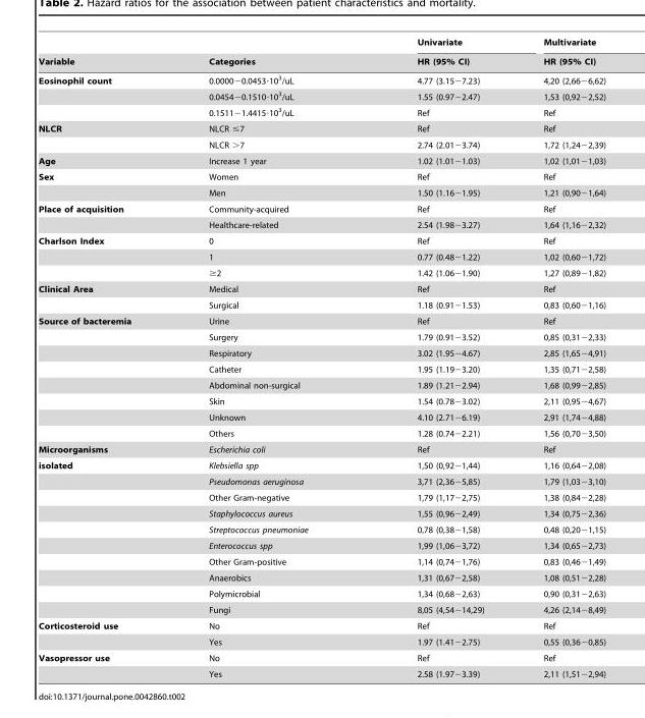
<table><thead><tr><td rowspan="2">Variable</td><td rowspan="2">Categories</td><td rowspan="2">Univariate HR (95% CI)</td><td rowspan="2">Multivariate HR (95% CI)</td></tr><tr></tr></thead><tbody><tr><td rowspan="3">Eosinophil count</td><td>0.0000−0.0453·10<sup>3</sup>/uL</td><td>4.77 (3.15−7.23)</td><td>4,20 (2,66−6,62)</td></tr><tr><td>0.0454−0.1510·10<sup>3</sup>/uL</td><td>1.55 (0.97−2.47)</td><td>1,53 (0,92−2,52)</td></tr><tr><td>0.1511−1.4415·10<sup>3</sup>/uL</td><td>Ref</td><td>Ref</td></tr><tr><td rowspan="2">NLCR</td><td>NLCR ≤7</td><td>Ref</td><td>Ref</td></tr><tr><td>NLCR &gt;7</td><td>2.74 (2.01−3.74)</td><td>1,72 (1,24−2,39)</td></tr><tr><td>Age</td><td>Increase 1 year</td><td>1.02 (1.01−1.03)</td><td>1,02 (1,01−1,03)</td></tr><tr><td rowspan="2">Sex</td><td>Women</td><td>Ref</td><td>Ref</td></tr><tr><td>Men</td><td>1.50 (1.16−1.95)</td><td>1,21 (0,90−1,64)</td></tr><tr><td rowspan="2">Place of acquisition</td><td>Community-acquired</td><td>Ref</td><td>Ref</td></tr><tr><td>Healthcare-related</td><td>2.54 (1.98−3.27)</td><td>1,64 (1,16−2,32)</td></tr><tr><td rowspan="3">Charlson Index</td><td>0</td><td>Ref</td><td>Ref</td></tr><tr><td>1</td><td>0.77 (0.48−1.22)</td><td>1,02 (0,60−1,72)</td></tr><tr><td>≥2</td><td>1.42 (1.06−1.90)</td><td>1,27 (0,89−1,82)</td></tr><tr><td rowspan="2">Clinical Area</td><td>Medical</td><td>Ref</td><td>Ref</td></tr><tr><td>Surgical</td><td>1.18 (0.91−1.53)</td><td>0,83 (0,60−1,16)</td></tr><tr><td rowspan="8">Source of bacteremia</td><td>Urine</td><td>Ref</td><td>Ref</td></tr><tr><td>Surgery</td><td>1.79 (0.91−3.52)</td><td>0,85 (0,31−2,33)</td></tr><tr><td>Respiratory</td><td>3.02 (1.95−4.67)</td><td>2,85 (1,65−4,91)</td></tr><tr><td>Catheter</td><td>1.95 (1.19−3.20)</td><td>1,35 (0,71−2,58)</td></tr><tr><td>Abdominal non-surgical</td><td>1.89 (1.21−2.94)</td><td>1,68 (0,99−2,85)</td></tr><tr><td>Skin</td><td>1.54 (0.78−3.02)</td><td>2,11 (0,95−4,67)</td></tr><tr><td>Unknown</td><td>4.10 (2.71−6.19)</td><td>2,91 (1,74−4,88)</td></tr><tr><td>Others</td><td>1.28 (0.74−2.21)</td><td>1,56 (0,70−3,50)</td></tr><tr><td>Microorganisms</td><td>Escherichia coli</td><td>Ref</td><td>Ref</td></tr><tr><td rowspan="10">isolated</td><td>Klebsiella spp</td><td>1,50 (0,92−1,44)</td><td>1,16 (0,64−2,08)</td></tr><tr><td>Pseudomonas aeruginosa</td><td>3,71 (2,36−5,85)</td><td>1,79 (1,03−3,10)</td></tr><tr><td>Other Gram-negative</td><td>1,79 (1,17−2,75)</td><td>1,38 (0,84−2,28)</td></tr><tr><td>Staphylococcus aureus</td><td>1,55 (0,96−2,49)</td><td>1,34 (0,75−2,36)</td></tr><tr><td>Streptococcus pneumoniae</td><td>0,78 (0,38−1,58)</td><td>0,48 (0,20−1,15)</td></tr><tr><td>Enterococcus spp</td><td>1,99 (1,06−3,72)</td><td>1,34 (0,65−2,73)</td></tr><tr><td>Other Gram-positive</td><td>1,14 (0,74−1,76)</td><td>0,83 (0,46−1,49)</td></tr><tr><td>Anaerobics</td><td>1,31 (0,67−2,58)</td><td>1,08 (0,51−2,28)</td></tr><tr><td>Polymicrobial</td><td>1,34 (0,68−2,63)</td><td>0,90 (0,31−2,63)</td></tr><tr><td>Fungi</td><td>8,05 (4,54−14,29)</td><td>4,26 (2,14−8,49)</td></tr><tr><td rowspan="2">Corticosteroid use</td><td>No</td><td>Ref</td><td>Ref</td></tr><tr><td>Yes</td><td>1.97 (1.41−2.75)</td><td>0,55 (0,36−0,85)</td></tr><tr><td rowspan="2">Vasopressor use</td><td>No</td><td>Ref</td><td>Ref</td></tr><tr><td>Yes</td><td>2.58 (1.97−3.39)</td><td>2,11 (1,51−2,94)</td></tr></tbody></table>